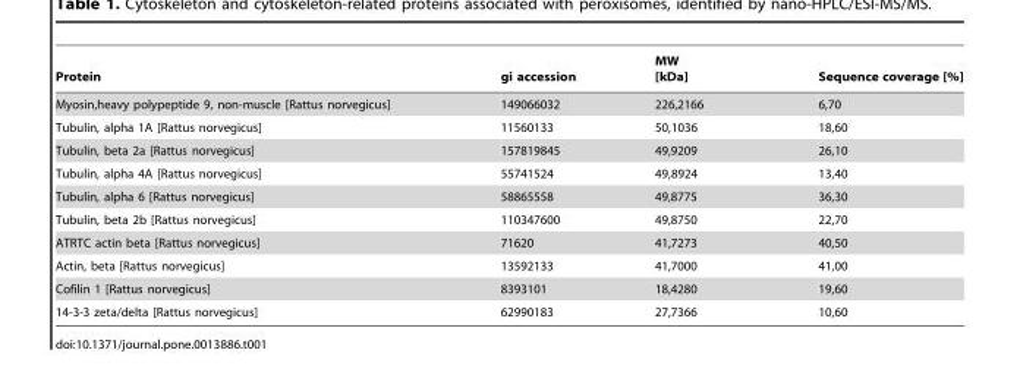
<table><thead><tr><td>Protein</td><td>gi accession</td><td>MW [kDa]</td><td>Sequence coverage [%]</td></tr></thead><tbody><tr><td>Myosin,heavy polypeptide 9, non-muscle [Rattus norvegicus]</td><td>149066032</td><td>226,2166</td><td>6,70</td></tr><tr><td>Tubulin, alpha 1A [Rattus norvegicus]</td><td>11560133</td><td>50,1036</td><td>18,60</td></tr><tr><td>Tubulin, beta 2a [Rattus norvegicus]</td><td>157819845</td><td>49,9209</td><td>26,10</td></tr><tr><td>Tubulin, alpha 4A [Rattus norvegicus]</td><td>55741524</td><td>49,8924</td><td>13,40</td></tr><tr><td>Tubulin, alpha 6 [Rattus norvegicus]</td><td>58865558</td><td>49,8775</td><td>36,30</td></tr><tr><td>Tubulin, beta 2b [Rattus norvegicus]</td><td>110347600</td><td>49,8750</td><td>22,70</td></tr><tr><td>ATRTC actin beta [Rattus norvegicus]</td><td>71620</td><td>41,7273</td><td>40,50</td></tr><tr><td>Actin, beta [Rattus norvegicus]</td><td>13592133</td><td>41,7000</td><td>41,00</td></tr><tr><td>Cofilin 1 [Rattus norvegicus]</td><td>8393101</td><td>18,4280</td><td>19,60</td></tr><tr><td>14-3-3 zeta/delta [Rattus norvegicus]</td><td>62990183</td><td>27,7366</td><td>10,60</td></tr></tbody></table>